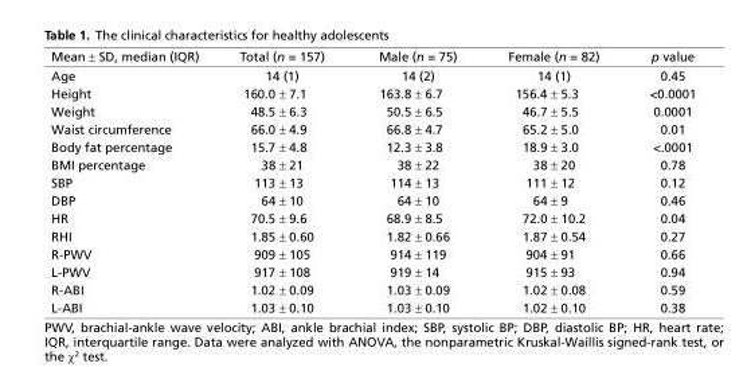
<table><thead><tr><td>Mean ± SD, median (IQR)</td><td>Total (n = 157)</td><td>Male (n = 75)</td><td>Female (n = 82)</td><td>p value</td></tr></thead><tbody><tr><td>Age</td><td>14 (1)</td><td>14 (2)</td><td>14 (1)</td><td>0.45</td></tr><tr><td>Height</td><td>160.0 ± 7.1</td><td>163.8 ± 6.7</td><td>156.4 ± 5.3</td><td>&lt;0.0001</td></tr><tr><td>Weight</td><td>48.5 ± 6.3</td><td>50.5 ± 6.5</td><td>46.7 ± 5.5</td><td>0.0001</td></tr><tr><td>Waist circumference</td><td>66.0 ± 4.9</td><td>66.8 ± 4.7</td><td>65.2 ± 5.0</td><td>0.01</td></tr><tr><td>Body fat percentage</td><td>15.7 ± 4.8</td><td>12.3 ± 3.8</td><td>18.9 ± 3.0</td><td>&lt;.0001</td></tr><tr><td>BMI percentage</td><td>38 ± 21</td><td>38 ± 22</td><td>38 ± 20</td><td>0.78</td></tr><tr><td>SBP</td><td>113 ± 13</td><td>114 ± 13</td><td>111 ± 12</td><td>0.12</td></tr><tr><td>DBP</td><td>64 ± 10</td><td>64 ± 10</td><td>64 ± 9</td><td>0.46</td></tr><tr><td>HR</td><td>70.5 ± 9.6</td><td>68.9 ± 8.5</td><td>72.0 ± 10.2</td><td>0.04</td></tr><tr><td>RHI</td><td>1.85 ± 0.60</td><td>1.82 ± 0.66</td><td>1.87 ± 0.54</td><td>0.27</td></tr><tr><td>R-PWV</td><td>909 ± 105</td><td>914 ± 119</td><td>904 ± 91</td><td>0.66</td></tr><tr><td>L-PWV</td><td>917 ± 108</td><td>919 ± 14</td><td>915 ± 93</td><td>0.94</td></tr><tr><td>R-ABI</td><td>1.02 ± 0.09</td><td>1.03 ± 0.09</td><td>1.02 ± 0.08</td><td>0.59</td></tr><tr><td>L-ABI</td><td>1.03 ± 0.10</td><td>1.03 ± 0.10</td><td>1.02 ± 0.10</td><td>0.38</td></tr></tbody></table>